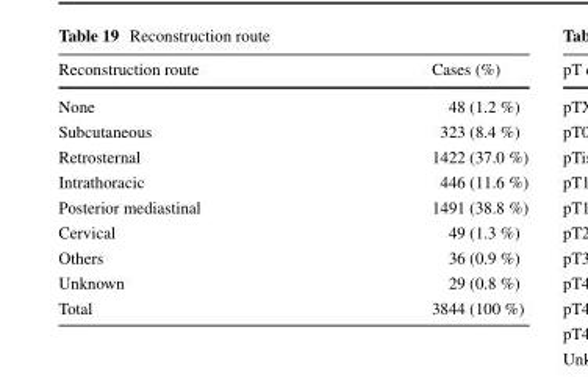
<table><thead><tr><td>Reconstruction route</td><td>Cases (%)</td></tr></thead><tbody><tr><td>None</td><td>48 (1.2 %)</td></tr><tr><td>Subcutaneous</td><td>323 (8.4 %)</td></tr><tr><td>Retrosternal</td><td>1422 (37.0 %)</td></tr><tr><td>Intrathoracic</td><td>446 (11.6 %)</td></tr><tr><td>Posterior mediastinal</td><td>1491 (38.8 %)</td></tr><tr><td>Cervical</td><td>49 (1.3 %)</td></tr><tr><td>Others</td><td>36 (0.9 %)</td></tr><tr><td>Unknown</td><td>29 (0.8 %)</td></tr><tr><td>Total</td><td>3844 (100 %)</td></tr></tbody></table>